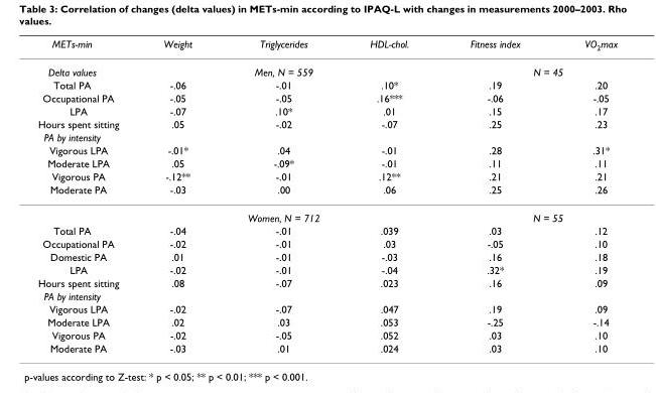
<table><thead><tr><td>METs-min</td><td>Weight</td><td>Triglycerides</td><td>HDL-chol.</td><td>Fitness index</td><td>VO<sub>2</sub>max</td></tr></thead><tbody><tr><td>Delta values</td><td colspan="3">Men, N = 559</td><td colspan="2">N = 45</td></tr><tr><td>Total PA</td><td>-.06</td><td>-.01</td><td>.10*</td><td>.19</td><td>.20</td></tr><tr><td>Occupational PA</td><td>-.05</td><td>-.05</td><td>.16***</td><td>-.06</td><td>-.05</td></tr><tr><td>LPA</td><td>-.07</td><td>.10*</td><td>.01</td><td>.15</td><td>.17</td></tr><tr><td>Hours spent sitting</td><td>.05</td><td>-.02</td><td>-.07</td><td>.25</td><td>.23</td></tr><tr><td colspan="6">PA by intensity</td></tr><tr><td>Vigorous LPA</td><td>-.01*</td><td>.04</td><td>-.01</td><td>.28</td><td>.31*</td></tr><tr><td>Moderate LPA</td><td>.05</td><td>-.09*</td><td>-.01</td><td>.11</td><td>.11</td></tr><tr><td>Vigorous PA</td><td>-.12**</td><td>-.01</td><td>.12**</td><td>.21</td><td>.21</td></tr><tr><td rowspan="2">Moderate PA</td><td>-.03</td><td>.00</td><td>.06</td><td>.25</td><td>.26</td></tr><tr><td colspan="3">Women, N = 712</td><td colspan="2">N = 55</td></tr><tr><td>Total PA</td><td>-.04</td><td>-.01</td><td>.039</td><td>.03</td><td>.12</td></tr><tr><td>Occupational PA</td><td>-.02</td><td>-.01</td><td>.03</td><td>-.05</td><td>.10</td></tr><tr><td>Domestic PA</td><td>.01</td><td>-.01</td><td>-.03</td><td>.16</td><td>.18</td></tr><tr><td>LPA</td><td>-.02</td><td>-.01</td><td>-.04</td><td>.32*</td><td>.19</td></tr><tr><td>Hours spent sitting</td><td>.08</td><td>-.07</td><td>.023</td><td>.16</td><td>.09</td></tr><tr><td colspan="6">PA by intensity</td></tr><tr><td>Vigorous LPA</td><td>-.02</td><td>-.07</td><td>.047</td><td>.19</td><td>.09</td></tr><tr><td>Moderate LPA</td><td>.02</td><td>.03</td><td>.053</td><td>-.25</td><td>-.14</td></tr><tr><td>Vigorous PA</td><td>-.02</td><td>-.05</td><td>.052</td><td>.03</td><td>.10</td></tr><tr><td>Moderate PA</td><td>-.03</td><td>.01</td><td>.024</td><td>.03</td><td>.10</td></tr></tbody></table>